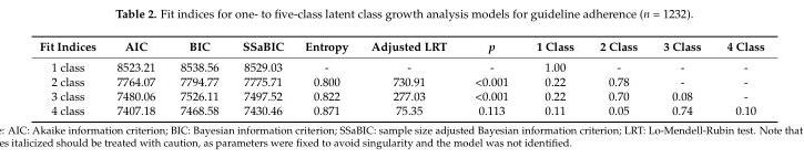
<table><thead><tr><td>Fit Indices</td><td>AIC</td><td>BIC</td><td>SSaBIC</td><td>Entropy</td><td>Adjusted LRT</td><td>p</td><td>1 Class</td><td>2 Class</td><td>3 Class</td><td>4 Class</td></tr></thead><tbody><tr><td>1 class</td><td>8523.21</td><td>8538.56</td><td>8529.03</td><td>-</td><td>-</td><td>-</td><td>1.00</td><td>-</td><td>-</td><td>-</td></tr><tr><td>2 class</td><td>7764.07</td><td>7794.77</td><td>7775.71</td><td>0.800</td><td>730.91</td><td>&lt;0.001</td><td>0.22</td><td>0.78</td><td>-</td><td>-</td></tr><tr><td>3 class</td><td>7480.06</td><td>7526.11</td><td>7497.52</td><td>0.822</td><td>277.03</td><td>&lt;0.001</td><td>0.22</td><td>0.70</td><td>0.08</td><td>-</td></tr><tr><td>4 class</td><td>7407.18</td><td>7468.58</td><td>7430.46</td><td>0.871</td><td>75.35</td><td>0.113</td><td>0.11</td><td>0.05</td><td>0.74</td><td>0.10</td></tr></tbody></table>